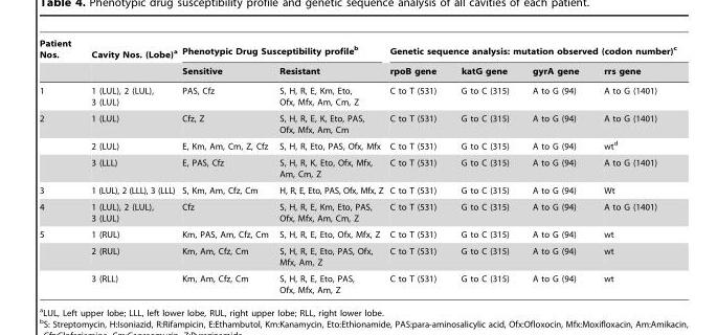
<table><thead><tr><td rowspan="2">Patient Nos.</td><td rowspan="2">Cavity Nos. (Lobe)<sup>a</sup></td><td colspan="2">Phenotypic Drug Susceptibility profile<sup>b</sup></td><td colspan="4">Genetic sequence analysis: mutation observed (codon number)<sup>c</sup></td></tr><tr><td>Sensitive</td><td>Resistant</td><td>rpoB gene</td><td>katG gene</td><td>gyrA gene</td><td>rrs gene</td></tr></thead><tbody><tr><td>1</td><td>1 (LUL), 2 (LUL), 3 (LUL)</td><td>PAS, Cfz</td><td>S, H, R, E, Km, Eto, Ofx, Mfx, Am, Cm, Z</td><td>C to T (531)</td><td>G to C (315)</td><td>A to G (94)</td><td>A to G (1401)</td></tr><tr><td rowspan="3">2</td><td>1 (LUL)</td><td>Cfz, Z</td><td>S, H, R, E, K, Eto, PAS, Ofx, Mfx, Am, Cm</td><td>C to T (531)</td><td>G to C (315)</td><td>A to G (94)</td><td>A to G (1401)</td></tr><tr><td>2 (LUL)</td><td>E, Km, Am, Cm, Z, Cfz</td><td>S, H, R, Eto, PAS, Ofx, Mfx</td><td>C to T (531)</td><td>G to C (315)</td><td>A to G (94)</td><td>wt<sup>d</sup></td></tr><tr><td>3 (LLL)</td><td>E, PAS, Cfz</td><td>S, H, R, K, Eto, Ofx, Mfx, Am, Cm, Z</td><td>C to T (531)</td><td>G to C (315)</td><td>A to G (94)</td><td>A to G (1401)</td></tr><tr><td>3</td><td>1 (LUL), 2 (LLL), 3 (LLL)</td><td>S, Km, Am, Cfz, Cm</td><td>H, R, E, Eto, PAS, Ofx, Mfx, Z</td><td>C to T (531)</td><td>G to C (315)</td><td>A to G (94)</td><td>Wt</td></tr><tr><td>4</td><td>1 (LUL), 2 (LUL), 3 (LUL)</td><td>Cfz</td><td>S, H, R, E, Km, Eto, PAS, Ofx, Mfx, Am, Cm, Z</td><td>C to T (531)</td><td>G to C (315)</td><td>A to G (94)</td><td>A to G (1401)</td></tr><tr><td rowspan="3">5</td><td>1 (RUL)</td><td>Km, PAS, Am, Cfz, Cm</td><td>S, H, R, E, Eto, Ofx, Mfx, Z</td><td>C to T (531)</td><td>G to C (315)</td><td>A to G (94)</td><td>wt</td></tr><tr><td>2 (RUL)</td><td>Km, Am, Cfz, Cm</td><td>S, H, R, E, Eto, PAS, Ofx, Mfx, Am, Z</td><td>C to T (531)</td><td>G to C (315)</td><td>A to G (94)</td><td>wt</td></tr><tr><td>3 (RLL)</td><td>Km, Am, Cfz, Cm</td><td>S, H, R, E, Eto, PAS, Ofx, Mfx, Am, Z</td><td>C to T (531)</td><td>G to C (315)</td><td>A to G (94)</td><td>wt</td></tr></tbody></table>